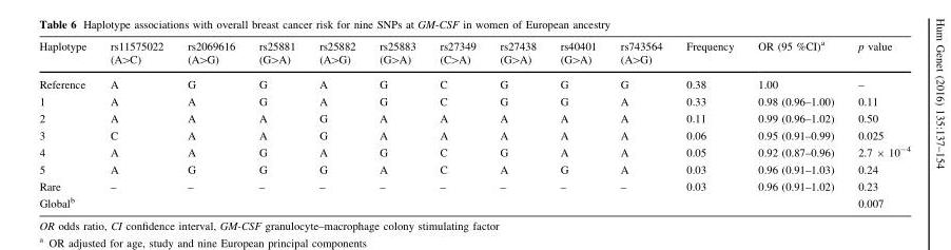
<table><thead><tr><td>Haplotype</td><td>rs11575022 (A&gt;C)</td><td>rs2069616 (A&gt;G)</td><td>rs25881 (G&gt;A)</td><td>rs25882 (A&gt;G)</td><td>rs25883 (G&gt;A)</td><td>rs27349 (C&gt;A)</td><td>rs27438 (G&gt;A)</td><td>rs40401 (G&gt;A)</td><td>rs743564 (A&gt;G)</td><td>Frequency</td><td>OR (95 %CI)<sup>a</sup></td><td>p value</td></tr></thead><tbody><tr><td>Reference</td><td>A</td><td>G</td><td>G</td><td>A</td><td>G</td><td>C</td><td>G</td><td>G</td><td>G</td><td>0.38</td><td>1.00</td><td>–</td></tr><tr><td>1</td><td>A</td><td>A</td><td>G</td><td>A</td><td>G</td><td>C</td><td>G</td><td>G</td><td>A</td><td>0.33</td><td>0.98 (0.96–1.00)</td><td>0.11</td></tr><tr><td>2</td><td>A</td><td>A</td><td>A</td><td>G</td><td>A</td><td>A</td><td>A</td><td>A</td><td>A</td><td>0.11</td><td>0.99 (0.96–1.02)</td><td>0.50</td></tr><tr><td>3</td><td>C</td><td>A</td><td>A</td><td>G</td><td>A</td><td>A</td><td>A</td><td>A</td><td>A</td><td>0.06</td><td>0.95 (0.91–0.99)</td><td>0.025</td></tr><tr><td>4</td><td>A</td><td>A</td><td>G</td><td>A</td><td>G</td><td>C</td><td>G</td><td>A</td><td>A</td><td>0.05</td><td>0.92 (0.87–0.96)</td><td>2.7 × 10<sup>-4</sup></td></tr><tr><td>5</td><td>A</td><td>G</td><td>G</td><td>G</td><td>A</td><td>C</td><td>A</td><td>G</td><td>A</td><td>0.03</td><td>0.96 (0.91–1.03)</td><td>0.24</td></tr><tr><td>Rare</td><td>–</td><td>–</td><td>–</td><td>–</td><td>–</td><td>–</td><td>–</td><td>–</td><td>–</td><td>0.03</td><td>0.96 (0.91–1.02)</td><td>0.23</td></tr><tr><td>Global<sup>b</sup></td><td></td><td></td><td></td><td></td><td></td><td></td><td></td><td></td><td></td><td></td><td></td><td>0.007</td></tr></tbody></table>